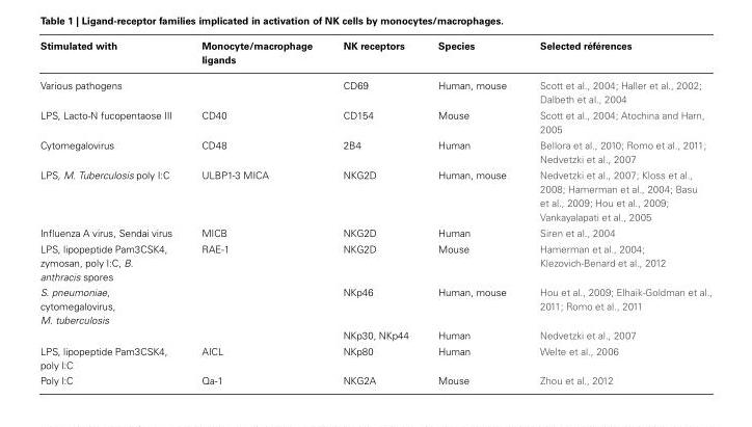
<table><thead><tr><td>Stimulated with</td><td>Monocyte/macrophage ligands</td><td>NK receptors</td><td>Species</td><td>Selected références</td></tr></thead><tbody><tr><td>Various pathogens</td><td></td><td>CD69</td><td>Human, mouse</td><td>Scott et al., 2004; Haller et al., 2002; Dalbeth et al., 2004</td></tr><tr><td>LPS, Lacto-N fucopentaose III</td><td>CD40</td><td>CD154</td><td>Mouse</td><td>Scott et al., 2004; Atochina and Harn, 2005</td></tr><tr><td>Cytomegalovirus</td><td>CD48</td><td>2B4</td><td>Human</td><td>Bellora et al., 2010; Romo et al., 2011; Nedvetzki et al., 2007</td></tr><tr><td>LPS, M. Tuberculosis poly I:C</td><td>ULBP1-3 MICA</td><td>NKG2D</td><td>Human, mouse</td><td>Nedvetzki et al., 2007; Kloss et al., 2008; Hamerman et al., 2004; Basu et al., 2009; Hou et al., 2009; Vankayalapati et al., 2005</td></tr><tr><td>Influenza A virus, Sendai virus</td><td>MICB</td><td>NKG2D</td><td>Human</td><td>Siren et al., 2004</td></tr><tr><td>LPS, lipopeptide Pam3CSK4, zymosan, poly I:C, B. anthracis spores</td><td>RAE-1</td><td>NKG2D</td><td>Mouse</td><td>Hamerman et al., 2004; Klezovich-Benard et al., 2012</td></tr><tr><td rowspan="2">S. pneumoniae, cytomegalovirus, M. tuberculosis</td><td></td><td>NKp46</td><td>Human, mouse</td><td>Hou et al., 2009; Elhaik-Goldman et al., 2011; Romo et al., 2011</td></tr><tr><td></td><td>NKp30, NKp44</td><td>Human</td><td>Nedvetzki et al., 2007</td></tr><tr><td>LPS, lipopeptide Pam3CSK4, poly l:C</td><td>AICL</td><td>NKp80</td><td>Human</td><td>Welte et al., 2006</td></tr><tr><td>Poly l:C</td><td>Qa-1</td><td>NKG2A</td><td>Mouse</td><td>Zhou et al., 2012</td></tr></tbody></table>